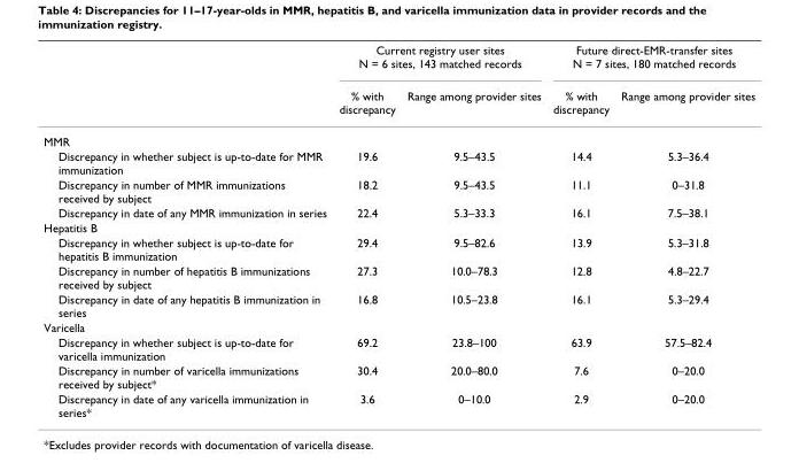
<table><thead><tr><td rowspan="2"></td><td colspan="2">Current registry user sites N = 6 sites, 143 matched records</td><td colspan="2">Future direct-EMR-transfer sites N = 7 sites, 180 matched records</td></tr><tr><td>% with discrepancy</td><td>Range among provider sites</td><td>% with discrepancy</td><td>Range among provider sites</td></tr></thead><tbody><tr><td colspan="5">MMR</td></tr><tr><td>Discrepancy in whether subject is up-to-date for MMR immunization</td><td>19.6</td><td>9.5–43.5</td><td>14.4</td><td>5.3–36.4</td></tr><tr><td>Discrepancy in number of MMR immunizations received by subject</td><td>18.2</td><td>9.5–43.5</td><td>11.1</td><td>0–31.8</td></tr><tr><td>Discrepancy in date of any MMR immunization in series</td><td>22.4</td><td>5.3–33.3</td><td>16.1</td><td>7.5–38.1</td></tr><tr><td colspan="5">Hepatitis B</td></tr><tr><td>Discrepancy in whether subject is up-to-date for hepatitis B immunization</td><td>29.4</td><td>9.5–82.6</td><td>13.9</td><td>5.3–31.8</td></tr><tr><td>Discrepancy in number of hepatitis B immunizations received by subject</td><td>27.3</td><td>10.0–78.3</td><td>12.8</td><td>4.8–22.7</td></tr><tr><td>Discrepancy in date of any hepatitis B immunization in series</td><td>16.8</td><td>10.5–23.8</td><td>16.1</td><td>5.3–29.4</td></tr><tr><td colspan="5">Varicella</td></tr><tr><td>Discrepancy in whether subject is up-to-date for varicella immunization</td><td>69.2</td><td>23.8–100</td><td>63.9</td><td>57.5–82.4</td></tr><tr><td>Discrepancy in number of varicella immunizations received by subject*</td><td>30.4</td><td>20.0–80.0</td><td>7.6</td><td>0–20.0</td></tr><tr><td>Discrepancy in date of any varicella immunization in series*</td><td>3.6</td><td>0–10.0</td><td>2.9</td><td>0–20.0</td></tr></tbody></table>